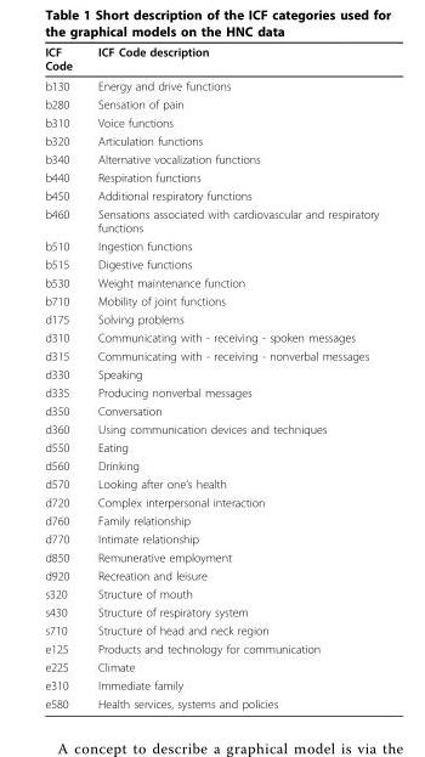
<table><thead><tr><td>ICF Code</td><td>ICF Code description</td></tr></thead><tbody><tr><td>b130</td><td>Energy and drive functions</td></tr><tr><td>b280</td><td>Sensation of pain</td></tr><tr><td>b310</td><td>Voice functions</td></tr><tr><td>b320</td><td>Articulation functions</td></tr><tr><td>b340</td><td>Alternative vocalization functions</td></tr><tr><td>b440</td><td>Respiration functions</td></tr><tr><td>b450</td><td>Additional respiratory functions</td></tr><tr><td>b460</td><td>Sensations associated with cardiovascular and respiratory functions</td></tr><tr><td>b510</td><td>Ingestion functions</td></tr><tr><td>b515</td><td>Digestive functions</td></tr><tr><td>b530</td><td>Weight maintenance function</td></tr><tr><td>b710</td><td>Mobility of joint functions</td></tr><tr><td>d175</td><td>Solving problems</td></tr><tr><td>d310</td><td>Communicating with - receiving - spoken messages</td></tr><tr><td>d315</td><td>Communicating with - receiving - nonverbal messages</td></tr><tr><td>d330</td><td>Speaking</td></tr><tr><td>d335</td><td>Producing nonverbal messages</td></tr><tr><td>d350</td><td>Conversation</td></tr><tr><td>d360</td><td>Using communication devices and techniques</td></tr><tr><td>d550</td><td>Eating</td></tr><tr><td>d560</td><td>Drinking</td></tr><tr><td>d570</td><td>Looking after one’s health</td></tr><tr><td>d720</td><td>Complex interpersonal interaction</td></tr><tr><td>d760</td><td>Family relationship</td></tr><tr><td>d770</td><td>Intimate relationship</td></tr><tr><td>d850</td><td>Remunerative employment</td></tr><tr><td>d920</td><td>Recreation and leisure</td></tr><tr><td>s320</td><td>Structure of mouth</td></tr><tr><td>s430</td><td>Structure of respiratory system</td></tr><tr><td>s710</td><td>Structure of head and neck region</td></tr><tr><td>e125</td><td>Products and technology for communication</td></tr><tr><td>e225</td><td>Climate</td></tr><tr><td>e310</td><td>Immediate family</td></tr><tr><td>e580</td><td>Health services, systems and policies</td></tr></tbody></table>